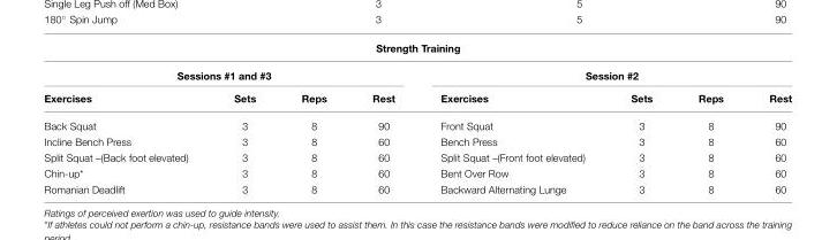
<table><thead><tr><td colspan="8">Strength Training</td></tr><tr><td colspan="4">Sessions #1 and #3</td><td colspan="4">Session #2</td></tr><tr><td>Exercises</td><td>Sets</td><td>Reps</td><td>Rest</td><td>Exercises</td><td>Sets</td><td>Reps</td><td>Rest</td></tr></thead><tbody><tr><td>Back Squat</td><td>3</td><td>8</td><td>90</td><td>Front Squat</td><td>3</td><td>8</td><td>90</td></tr><tr><td>Incline Bench Press</td><td>3</td><td>8</td><td>60</td><td>Bench Press</td><td>3</td><td>8</td><td>60</td></tr><tr><td>Split Squat –(Back foot elevated)</td><td>3</td><td>8</td><td>60</td><td>Split Squat –(Front foot elevated)</td><td>3</td><td>8</td><td>60</td></tr><tr><td>Chin-up*</td><td>3</td><td>8</td><td>60</td><td>Bent Over Row</td><td>3</td><td>8</td><td>60</td></tr><tr><td>Romanian Deadlift</td><td>3</td><td>8</td><td>60</td><td>Backward Alternating Lunge</td><td>3</td><td>8</td><td>60</td></tr></tbody></table>